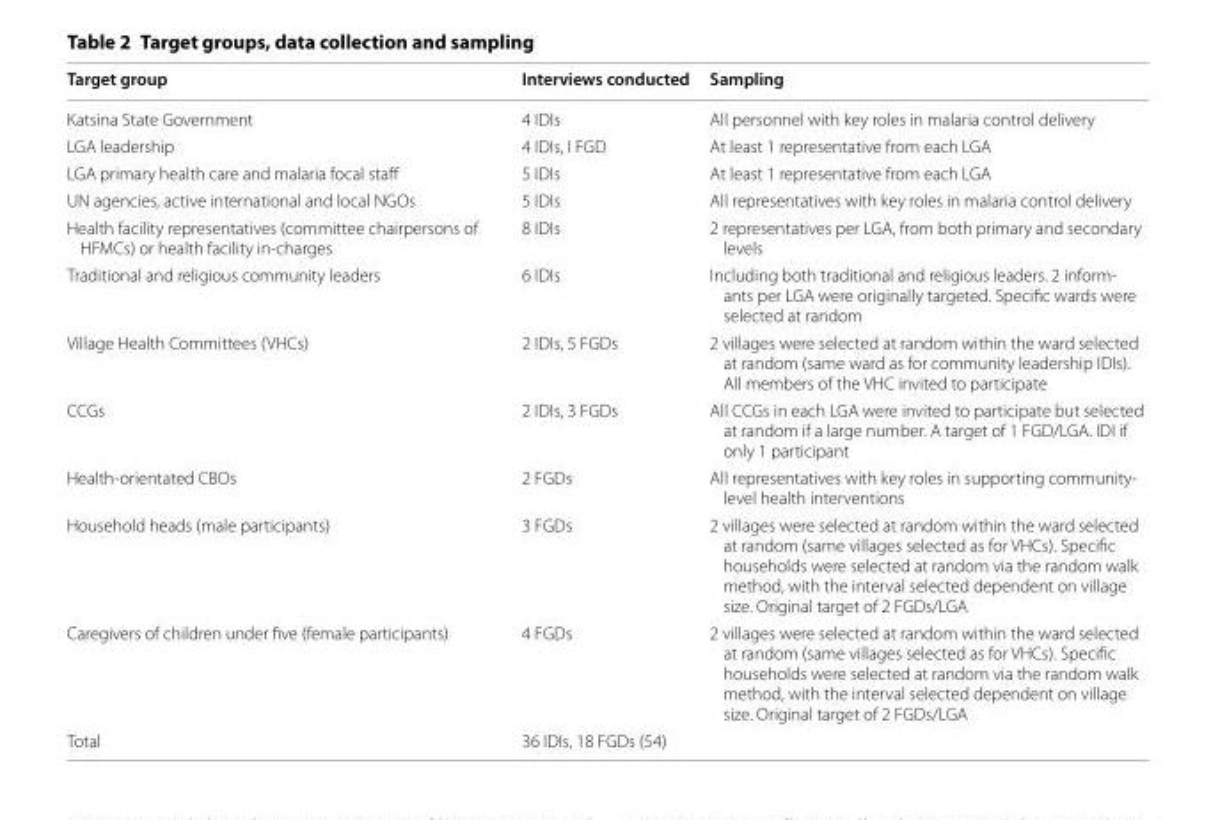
<table><thead><tr><td>Target group</td><td>Interviews conducted</td><td>Sampling</td></tr></thead><tbody><tr><td>Katsina State Government</td><td>4 IDIs</td><td>All personnel with key roles in malaria control delivery</td></tr><tr><td>LGA leadership</td><td>4 IDIs, I FGD</td><td>At least 1 representative from each LGA</td></tr><tr><td>LGA primary health care and malaria focal staff</td><td>5 IDIs</td><td>At least 1 representative from each LGA</td></tr><tr><td>UN agencies, active international and local NGOs</td><td>5 IDIs</td><td>All representatives with key roles in malaria control delivery</td></tr><tr><td>Health facility representatives (committee chairpersons of HFMCs) or health facility in-charges</td><td>8 IDIs</td><td>2 representatives per LGA, from both primary and secondary levels</td></tr><tr><td>Traditional and religious community leaders</td><td>6 IDIs</td><td>Including both traditional and religious leaders. 2 inform- ants per LGA were originally targeted. Specific wards were selected at random</td></tr><tr><td>Village Health Committees (VHCs)</td><td>2 IDIs, 5 FGDs</td><td>2 villages were selected at random within the ward selected at random (same ward as for community leadership IDIs). All members of the VHC invited to participate</td></tr><tr><td>CCGs</td><td>2 IDIs, 3 FGDs</td><td>All CCGs in each LGA were invited to participate but selected at random if a large number. A target of 1 FGD/LGA. IDI if only 1 participant</td></tr><tr><td>Health-orientated CBOs</td><td>2 FGDs</td><td>All representatives with key roles in supporting community- level health interventions</td></tr><tr><td>Household heads (male participants)</td><td>3 FGDs</td><td>2 villages were selected at random within the ward selected at random (same villages selected as for VHCs). Specific households were selected at random via the random walk method, with the interval selected dependent on village size. Original target of 2 FGDs/LGA</td></tr><tr><td>Caregivers of children under five (female participants)</td><td>4 FGDs</td><td>2 villages were selected at random within the ward selected at random (same villages selected as for VHCs). Specific households were selected at random via the random walk method, with the interval selected dependent on village size. Original target of 2 FGDs/LGA</td></tr><tr><td>Total</td><td colspan="2">36 IDIs, 18 FGDs (54)</td></tr></tbody></table>